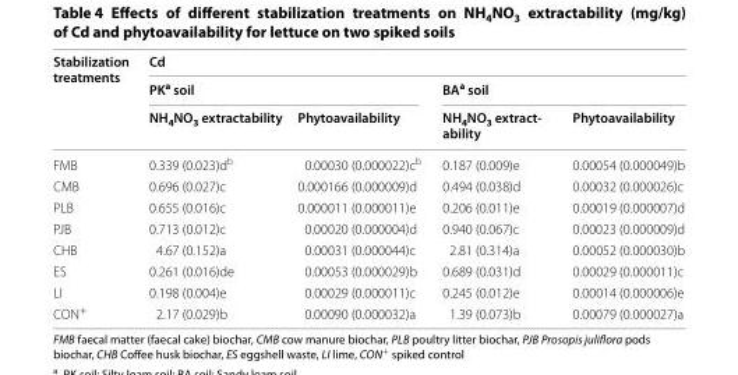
<table><thead><tr><td rowspan="3">Stabilization treatments</td><td colspan="4">Cd</td></tr><tr><td colspan="2">PK<sup>a</sup> soil</td><td colspan="2">BA<sup>a</sup> soil</td></tr><tr><td>NH<sub>4</sub>NO<sub>3</sub> extractability</td><td>Phytoavailability</td><td>NH4NO3 extract‑ ability</td><td>Phytoavailability</td></tr></thead><tbody><tr><td>FMB</td><td>0.339 (0.023)d<sup>b</sup></td><td>0.00030 (0.000022)c<sup>b</sup></td><td>0.187 (0.009)e</td><td>0.00054 (0.000049)b</td></tr><tr><td>CMB</td><td>0.696 (0.027)c</td><td>0.000166 (0.000009)d</td><td>0.494 (0.038)d</td><td>0.00032 (0.000026)c</td></tr><tr><td>PLB</td><td>0.655 (0.016)c</td><td>0.000011 (0.000011)e</td><td>0.206 (0.011)e</td><td>0.00019 (0.000007)d</td></tr><tr><td>PJB</td><td>0.713 (0.012)c</td><td>0.00020 (0.000004)d</td><td>0.940 (0.067)c</td><td>0.00023 (0.000009)d</td></tr><tr><td>CHB</td><td>4.67 (0.152)a</td><td>0.00031 (0.000044)c</td><td>2.81 (0.314)a</td><td>0.00052 (0.000030)b</td></tr><tr><td>ES</td><td>0.261 (0.016)de</td><td>0.00053 (0.000029)b</td><td>0.689 (0.031)d</td><td>0.00029 (0.000011)c</td></tr><tr><td>LI</td><td>0.198 (0.004)e</td><td>0.00029 (0.000011)c</td><td>0.245 (0.012)e</td><td>0.00014 (0.000006)e</td></tr><tr><td>CON<sup>+</sup></td><td>2.17 (0.029)b</td><td>0.00090 (0.000032)a</td><td>1.39 (0.073)b</td><td>0.00079 (0.000027)a</td></tr></tbody></table>